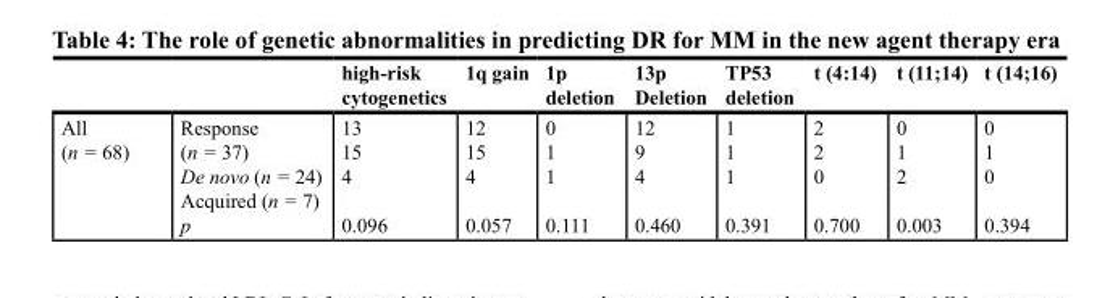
<table><thead><tr><td></td><td></td><td>high-risk cytogenetics</td><td>1q gain</td><td>1p deletion</td><td>13p Deletion</td><td>TP53 deletion</td><td>t (4:14)</td><td>t (11;14)</td><td>t (14;16)</td></tr></thead><tbody><tr><td>All (n = 68)</td><td>Response (n = 37) De novo (n = 24) Acquired (n = 7) p</td><td>13 15 4 0.096</td><td>12 15 4 0.057</td><td>0 1 1 0.111</td><td>12 9 4 0.460</td><td>1 1 1 0.391</td><td>2 2 0 0.700</td><td>0 1 2 0.003</td><td>0 1 0 0.394</td></tr></tbody></table>